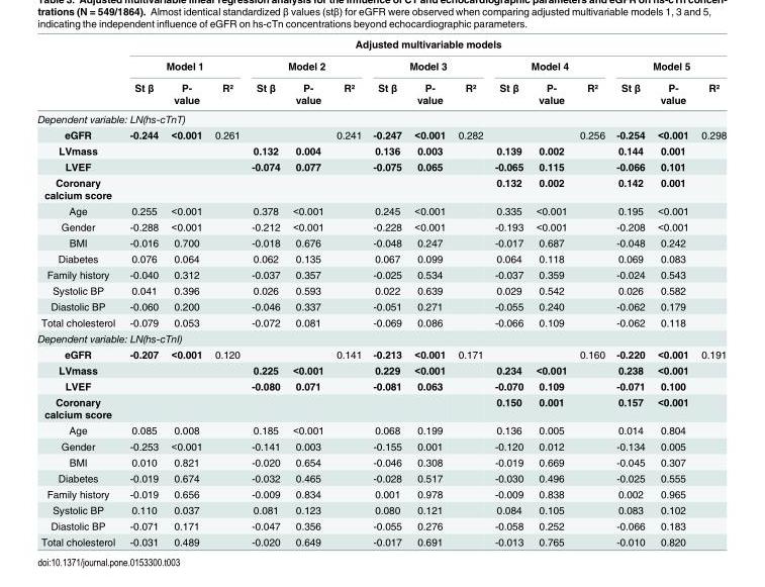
<table><thead><tr><td rowspan="3"></td><td colspan="15">Adjusted multivariable models</td></tr><tr><td colspan="3">Model 1</td><td colspan="3">Model 2</td><td colspan="3">Model 3</td><td colspan="3">Model 4</td><td colspan="3">Model 5</td></tr><tr><td>St β</td><td>P- value</td><td>R²</td><td>St β</td><td>P- value</td><td>R²</td><td>St β</td><td>P- value</td><td>R²</td><td>St β</td><td>P- value</td><td>R²</td><td>St β</td><td>P- value</td><td>R²</td></tr></thead><tbody><tr><td colspan="16">Dependent variable: LN(hs-cTnT)</td></tr><tr><td>eGFR</td><td>-0.244</td><td>&lt;0.001</td><td>0.261</td><td></td><td></td><td>0.241</td><td>-0.247</td><td>&lt;0.001</td><td>0.282</td><td></td><td></td><td>0.256</td><td>-0.254</td><td>&lt;0.001</td><td>0.298</td></tr><tr><td>LVmass</td><td></td><td></td><td></td><td>0.132</td><td>0.004</td><td></td><td>0.136</td><td>0.003</td><td></td><td>0.139</td><td>0.002</td><td></td><td>0.144</td><td>0.001</td><td></td></tr><tr><td>LVEF</td><td></td><td></td><td></td><td>-0.074</td><td>0.077</td><td></td><td>-0.075</td><td>0.065</td><td></td><td>-0.065</td><td>0.115</td><td></td><td>-0.066</td><td>0.101</td><td></td></tr><tr><td>Coronary calcium score</td><td></td><td></td><td></td><td></td><td></td><td></td><td></td><td></td><td></td><td>0.132</td><td>0.002</td><td></td><td>0.142</td><td>0.001</td><td></td></tr><tr><td>Age</td><td>0.255</td><td>&lt;0.001</td><td></td><td>0.378</td><td>&lt;0.001</td><td></td><td>0.245</td><td>&lt;0.001</td><td></td><td>0.335</td><td>&lt;0.001</td><td></td><td>0.195</td><td>&lt;0.001</td><td></td></tr><tr><td>Gender</td><td>-0.288</td><td>&lt;0.001</td><td></td><td>-0.212</td><td>&lt;0.001</td><td></td><td>-0.228</td><td>&lt;0.001</td><td></td><td>-0.193</td><td>&lt;0.001</td><td></td><td>-0.208</td><td>&lt;0.001</td><td></td></tr><tr><td>BMI</td><td>-0.016</td><td>0.700</td><td></td><td>-0.018</td><td>0.676</td><td></td><td>-0.048</td><td>0.247</td><td></td><td>-0.017</td><td>0.687</td><td></td><td>-0.048</td><td>0.242</td><td></td></tr><tr><td>Diabetes</td><td>0.076</td><td>0.064</td><td></td><td>0.062</td><td>0.135</td><td></td><td>0.067</td><td>0.099</td><td></td><td>0.064</td><td>0.118</td><td></td><td>0.069</td><td>0.083</td><td></td></tr><tr><td>Family history</td><td>-0.040</td><td>0.312</td><td></td><td>-0.037</td><td>0.357</td><td></td><td>-0.025</td><td>0.534</td><td></td><td>-0.037</td><td>0.359</td><td></td><td>-0.024</td><td>0.543</td><td></td></tr><tr><td>Systolic BP</td><td>0.041</td><td>0.396</td><td></td><td>0.026</td><td>0.593</td><td></td><td>0.022</td><td>0.639</td><td></td><td>0.029</td><td>0.542</td><td></td><td>0.026</td><td>0.582</td><td></td></tr><tr><td>Diastolic BP</td><td>-0.060</td><td>0.200</td><td></td><td>-0.046</td><td>0.337</td><td></td><td>-0.051</td><td>0.271</td><td></td><td>-0.055</td><td>0.240</td><td></td><td>-0.062</td><td>0.179</td><td></td></tr><tr><td>Total cholesterol</td><td>-0.079</td><td>0.053</td><td></td><td>-0.072</td><td>0.081</td><td></td><td>-0.069</td><td>0.086</td><td></td><td>-0.066</td><td>0.109</td><td></td><td>-0.062</td><td>0.118</td><td></td></tr><tr><td colspan="16">Dependent variable: LN(hs-cTnI)</td></tr><tr><td>eGFR</td><td>-0.207</td><td>&lt;0.001</td><td>0.120</td><td></td><td></td><td>0.141</td><td>-0.213</td><td>&lt;0.001</td><td>0.171</td><td></td><td></td><td>0.160</td><td>-0.220</td><td>&lt;0.001</td><td>0.191</td></tr><tr><td>LVmass</td><td></td><td></td><td></td><td>0.225</td><td>&lt;0.001</td><td></td><td>0.229</td><td>&lt;0.001</td><td></td><td>0.234</td><td>&lt;0.001</td><td></td><td>0.238</td><td>&lt;0.001</td><td></td></tr><tr><td>LVEF</td><td></td><td></td><td></td><td>-0.080</td><td>0.071</td><td></td><td>-0.081</td><td>0.063</td><td></td><td>-0.070</td><td>0.109</td><td></td><td>-0.071</td><td>0.100</td><td></td></tr><tr><td>Coronary calcium score</td><td></td><td></td><td></td><td></td><td></td><td></td><td></td><td></td><td></td><td>0.150</td><td>0.001</td><td></td><td>0.157</td><td>&lt;0.001</td><td></td></tr><tr><td>Age</td><td>0.085</td><td>0.008</td><td></td><td>0.185</td><td>&lt;0.001</td><td></td><td>0.068</td><td>0.199</td><td></td><td>0.136</td><td>0.005</td><td></td><td>0.014</td><td>0.804</td><td></td></tr><tr><td>Gender</td><td>-0.253</td><td>&lt;0.001</td><td></td><td>-0.141</td><td>0.003</td><td></td><td>-0.155</td><td>0.001</td><td></td><td>-0.120</td><td>0.012</td><td></td><td>-0.134</td><td>0.005</td><td></td></tr><tr><td>BMI</td><td>0.010</td><td>0.821</td><td></td><td>-0.020</td><td>0.654</td><td></td><td>-0.046</td><td>0.308</td><td></td><td>-0.019</td><td>0.669</td><td></td><td>-0.045</td><td>0.307</td><td></td></tr><tr><td>Diabetes</td><td>-0.019</td><td>0.674</td><td></td><td>-0.032</td><td>0.465</td><td></td><td>-0.028</td><td>0.517</td><td></td><td>-0.030</td><td>0.496</td><td></td><td>-0.025</td><td>0.555</td><td></td></tr><tr><td>Family history</td><td>-0.019</td><td>0.656</td><td></td><td>-0.009</td><td>0.834</td><td></td><td>0.001</td><td>0.978</td><td></td><td>-0.009</td><td>0.838</td><td></td><td>0.002</td><td>0.965</td><td></td></tr><tr><td>Systolic BP</td><td>0.110</td><td>0.037</td><td></td><td>0.081</td><td>0.123</td><td></td><td>0.080</td><td>0.121</td><td></td><td>0.084</td><td>0.105</td><td></td><td>0.083</td><td>0.102</td><td></td></tr><tr><td>Diastolic BP</td><td>-0.071</td><td>0.171</td><td></td><td>-0.047</td><td>0.356</td><td></td><td>-0.055</td><td>0.276</td><td></td><td>-0.058</td><td>0.252</td><td></td><td>-0.066</td><td>0.183</td><td></td></tr><tr><td>Total cholesterol</td><td>-0.031</td><td>0.489</td><td></td><td>-0.020</td><td>0.649</td><td></td><td>-0.017</td><td>0.691</td><td></td><td>-0.013</td><td>0.765</td><td></td><td>-0.010</td><td>0.820</td><td></td></tr></tbody></table>